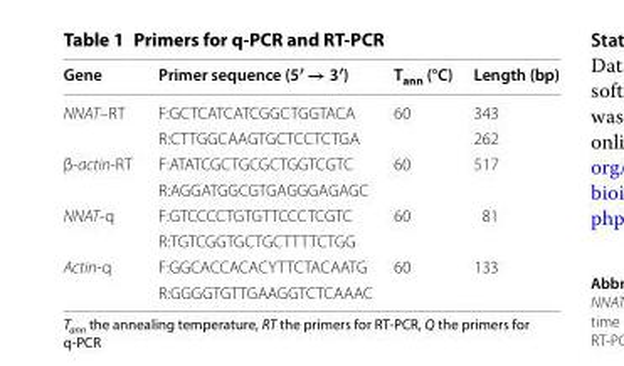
<table><thead><tr><td>Gene</td><td>Primer sequence (5′ → 3′)</td><td>T<sub>ann</sub> (°C)</td><td>Length (bp)</td></tr></thead><tbody><tr><td rowspan="2">NNAT–RT</td><td>F:GCTCATCATCGGCTGGTACA</td><td rowspan="2">60</td><td>343</td></tr><tr><td>R:CTTGGCAAGTGCTCCTCTGA</td><td>262</td></tr><tr><td rowspan="2">β-actin-RT</td><td>F:ATATCGCTGCGCTGGTCGTC</td><td rowspan="2">60</td><td rowspan="2">517</td></tr><tr><td>R:AGGATGGCGTGAGGGAGAGC</td></tr><tr><td rowspan="2">NNAT-q</td><td>F:GTCCCCTGTGTTCCCTCGTC</td><td rowspan="2">60</td><td rowspan="2">81</td></tr><tr><td>R:TGTCGGTGCTGCTTTTCTGG</td></tr><tr><td rowspan="2">Actin-q</td><td>F:GGCACCACACYTTCTACAATG</td><td rowspan="2">60</td><td rowspan="2">133</td></tr><tr><td>R:GGGGTGTTGAAGGTCTCAAAC</td></tr></tbody></table>